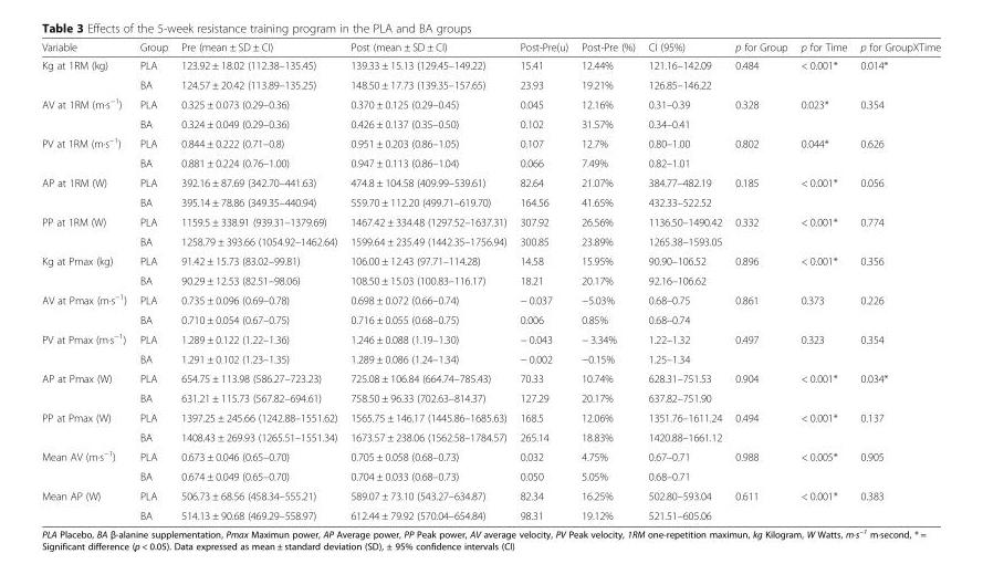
<table><thead><tr><td>Variable</td><td>Group</td><td>Pre (mean ± SD ± CI)</td><td>Post (mean ± SD ± CI)</td><td>Post-Pre(u)</td><td>Post-Pre (%)</td><td>CI (95%)</td><td>p for Group</td><td>p for Time</td><td>p for GroupXTime</td></tr></thead><tbody><tr><td rowspan="2">Kg at 1RM (kg)</td><td>PLA</td><td>123.92 ± 18.02 (112.38–135.45)</td><td>139.33 ± 15.13 (129.45–149.22)</td><td>15.41</td><td>12.44%</td><td>121.16–142.09</td><td rowspan="2">0.484</td><td rowspan="2">&lt; 0.001*</td><td rowspan="2">0.014*</td></tr><tr><td>BA</td><td>124.57 ± 20.42 (113.89–135.25)</td><td>148.50 ± 17.73 (139.35–157.65)</td><td>23.93</td><td>19.21%</td><td>126.85–146.22</td></tr><tr><td rowspan="2">AV at 1RM (m·s<sup>−1</sup>)</td><td>PLA</td><td>0.325 ± 0.073 (0.29–0.36)</td><td>0.370 ± 0.125 (0.29–0.45)</td><td>0.045</td><td>12.16%</td><td>0.31–0.39</td><td rowspan="2">0.328</td><td rowspan="2">0.023*</td><td rowspan="2">0.354</td></tr><tr><td>BA</td><td>0.324 ± 0.049 (0.29–0.36)</td><td>0.426 ± 0.137 (0.35–0.50)</td><td>0.102</td><td>31.57%</td><td>0.34–0.41</td></tr><tr><td rowspan="2">PV at 1RM (m·s<sup>−1</sup>)</td><td>PLA</td><td>0.844 ± 0.222 (0.71–0.8)</td><td>0.951 ± 0.203 (0.86–1.05)</td><td>0.107</td><td>12.7%</td><td>0.80–1.00</td><td rowspan="2">0.802</td><td rowspan="2">0.044*</td><td rowspan="2">0.626</td></tr><tr><td>BA</td><td>0.881 ± 0.224 (0.76–1.00)</td><td>0.947 ± 0.113 (0.86–1.04)</td><td>0.066</td><td>7.49%</td><td>0.82–1.01</td></tr><tr><td rowspan="2">AP at 1RM (W)</td><td>PLA</td><td>392.16 ± 87.69 (342.70–441.63)</td><td>474.8 ± 104.58 (409.99–539.61)</td><td>82.64</td><td>21.07%</td><td>384.77–482.19</td><td rowspan="2">0.185</td><td rowspan="2">&lt; 0.001*</td><td rowspan="2">0.056</td></tr><tr><td>BA</td><td>395.14 ± 78.86 (349.35–440.94)</td><td>559.70 ± 112.20 (499.71–619.70)</td><td>164.56</td><td>41.65%</td><td>432.33–522.52</td></tr><tr><td rowspan="2">PP at 1RM (W)</td><td>PLA</td><td>1159.5 ± 338.91 (939.31–1379.69)</td><td>1467.42 ± 334.48 (1297.52–1637.31)</td><td>307.92</td><td>26.56%</td><td>1136.50–1490.42</td><td rowspan="2">0.332</td><td rowspan="2">&lt; 0.001*</td><td rowspan="2">0.774</td></tr><tr><td>BA</td><td>1258.79 ± 393.66 (1054.92–1462.64)</td><td>1599.64 ± 235.49 (1442.35–1756.94)</td><td>300.85</td><td>23.89%</td><td>1265.38–1593.05</td></tr><tr><td rowspan="2">Kg at Pmax (kg)</td><td>PLA</td><td>91.42 ± 15.73 (83.02–99.81)</td><td>106.00 ± 12.43 (97.71–114.28)</td><td>14.58</td><td>15.95%</td><td>90.90–106.52</td><td rowspan="2">0.896</td><td rowspan="2">&lt; 0.001*</td><td rowspan="2">0.356</td></tr><tr><td>BA</td><td>90.29 ± 12.53 (82.51–98.06)</td><td>108.50 ± 15.03 (100.83–116.17)</td><td>18.21</td><td>20.17%</td><td>92.16–106.62</td></tr><tr><td rowspan="2">AV at Pmax (m·s<sup>−1</sup>)</td><td>PLA</td><td>0.735 ± 0.096 (0.69–0.78)</td><td>0.698 ± 0.072 (0.66–0.74)</td><td>− 0.037</td><td>−5.03%</td><td>0.68–0.75</td><td rowspan="2">0.861</td><td rowspan="2">0.373</td><td rowspan="2">0.226</td></tr><tr><td>BA</td><td>0.710 ± 0.054 (0.67–0.75)</td><td>0.716 ± 0.055 (0.68–0.75)</td><td>0.006</td><td>0.85%</td><td>0.68–0.74</td></tr><tr><td rowspan="2">PV at Pmax (m·s<sup>−1</sup>)</td><td>PLA</td><td>1.289 ± 0.122 (1.22–1.36)</td><td>1.246 ± 0.088 (1.19–1.30)</td><td>− 0.043</td><td>− 3.34%</td><td>1.22–1.32</td><td rowspan="2">0.497</td><td rowspan="2">0.323</td><td rowspan="2">0.354</td></tr><tr><td>BA</td><td>1.291 ± 0.102 (1.23–1.35)</td><td>1.289 ± 0.086 (1.24–1.34)</td><td>− 0.002</td><td>−0.15%</td><td>1.25–1.34</td></tr><tr><td rowspan="2">AP at Pmax (W)</td><td>PLA</td><td>654.75 ± 113.98 (586.27–723.23)</td><td>725.08 ± 106.84 (664.74–785.43)</td><td>70.33</td><td>10.74%</td><td>628.31–751.53</td><td rowspan="2">0.904</td><td rowspan="2">&lt; 0.001*</td><td rowspan="2">0.034*</td></tr><tr><td>BA</td><td>631.21 ± 115.73 (567.82–694.61)</td><td>758.50 ± 96.33 (702.63–814.37)</td><td>127.29</td><td>20.17%</td><td>637.82–751.90</td></tr><tr><td rowspan="2">PP at Pmax (W)</td><td>PLA</td><td>1397.25 ± 245.66 (1242.88–1551.62)</td><td>1565.75 ± 146.17 (1445.86–1685.63)</td><td>168.5</td><td>12.06%</td><td>1351.76–1611.24</td><td rowspan="2">0.494</td><td rowspan="2">&lt; 0.001*</td><td rowspan="2">0.137</td></tr><tr><td>BA</td><td>1408.43 ± 269.93 (1265.51–1551.34)</td><td>1673.57 ± 238.06 (1562.58–1784.57)</td><td>265.14</td><td>18.83%</td><td>1420.88–1661.12</td></tr><tr><td rowspan="2">Mean AV (m·s<sup>−1</sup>)</td><td>PLA</td><td>0.673 ± 0.046 (0.65–0.70)</td><td>0.705 ± 0.058 (0.68–0.73)</td><td>0.032</td><td>4.75%</td><td>0.67–0.71</td><td rowspan="2">0.988</td><td rowspan="2">&lt; 0.005*</td><td rowspan="2">0.905</td></tr><tr><td>BA</td><td>0.674 ± 0.049 (0.65–0.70)</td><td>0.704 ± 0.033 (0.68–0.73)</td><td>0.050</td><td>5.05%</td><td>0.68–0.71</td></tr><tr><td rowspan="2">Mean AP (W)</td><td>PLA</td><td>506.73 ± 68.56 (458.34–555.21)</td><td>589.07 ± 73.10 (543.27–634.87)</td><td>82.34</td><td>16.25%</td><td>502.80–593.04</td><td rowspan="2">0.611</td><td rowspan="2">&lt; 0.001*</td><td rowspan="2">0.383</td></tr><tr><td>BA</td><td>514.13 ± 90.68 (469.29–558.97)</td><td>612.44 ± 79.92 (570.04–654.84)</td><td>98.31</td><td>19.12%</td><td>521.51–605.06</td></tr></tbody></table>